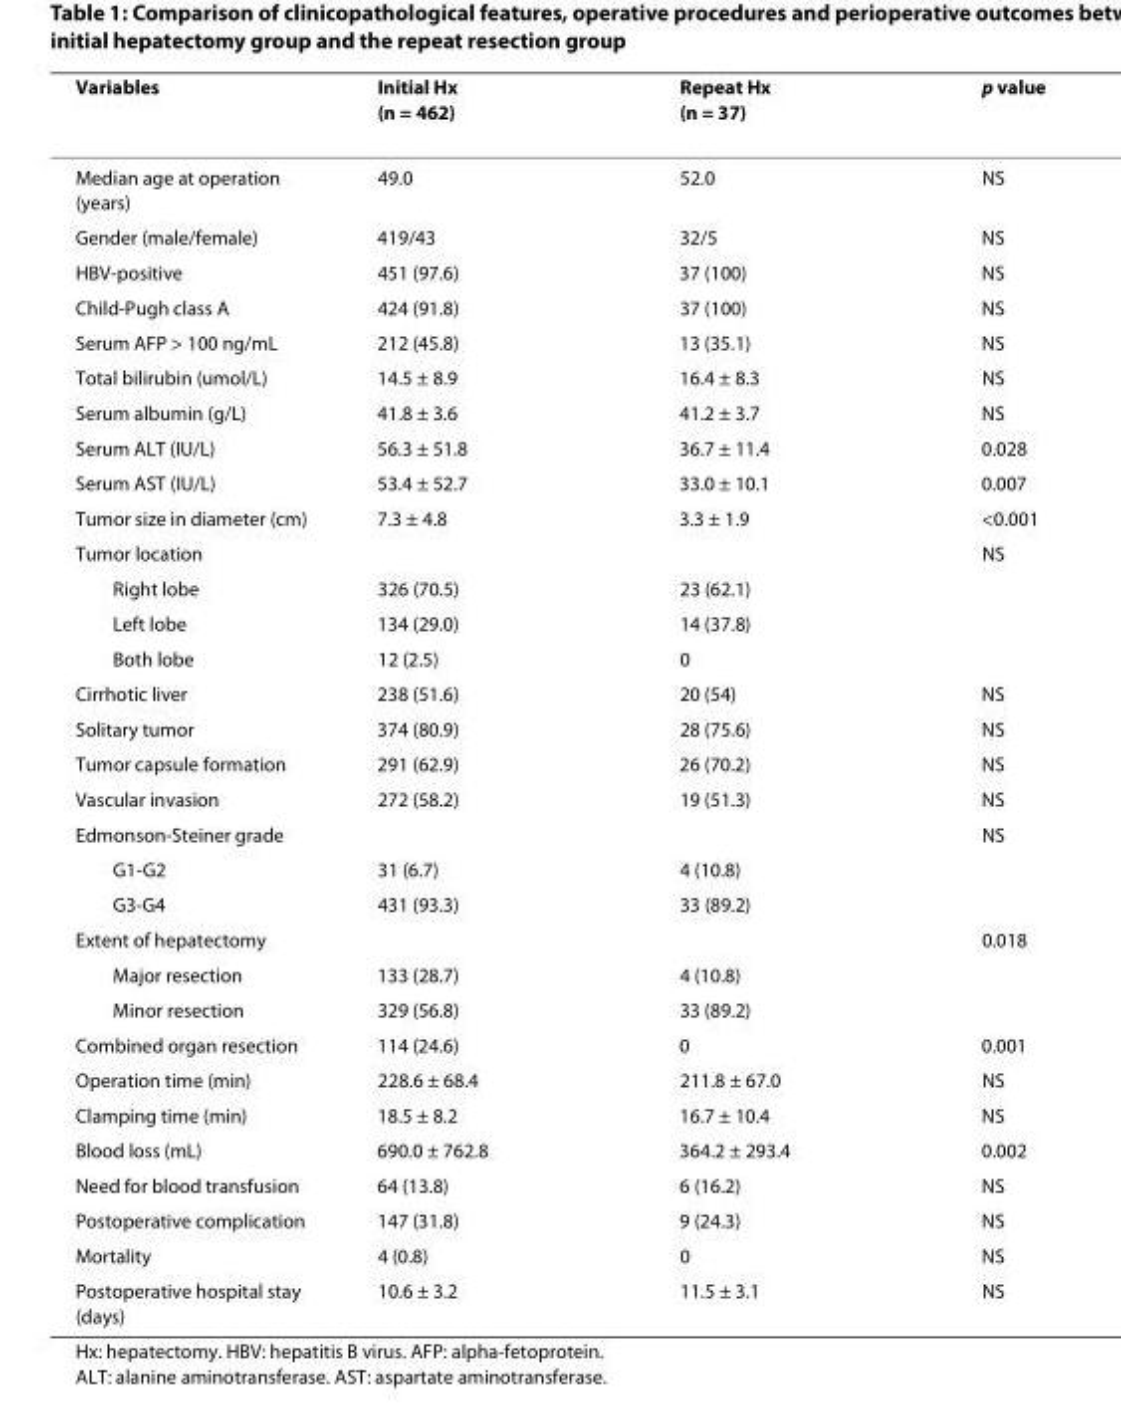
<table><thead><tr><td>Variables</td><td>Initial Hx (n = 462)</td><td>Repeat Hx (n = 37)</td><td>p value</td></tr></thead><tbody><tr><td>Median age at operation (years)</td><td>49.0</td><td>52.0</td><td>NS</td></tr><tr><td>Gender (male/female)</td><td>419/43</td><td>32/5</td><td>NS</td></tr><tr><td>HBV-positive</td><td>451 (97.6)</td><td>37 (100)</td><td>NS</td></tr><tr><td>Child-Pugh class A</td><td>424 (91.8)</td><td>37 (100)</td><td>NS</td></tr><tr><td>Serum AFP &gt; 100 ng/mL</td><td>212 (45.8)</td><td>13 (35.1)</td><td>NS</td></tr><tr><td>Total bilirubin (umol/L)</td><td>14.5 ± 8.9</td><td>16.4 ± 8.3</td><td>NS</td></tr><tr><td>Serum albumin (g/L)</td><td>41.8 ± 3.6</td><td>41.2 ± 3.7</td><td>NS</td></tr><tr><td>Serum ALT (IU/L)</td><td>56.3 ± 51.8</td><td>36.7 ± 11.4</td><td>0.028</td></tr><tr><td>Serum AST (IU/L)</td><td>53.4 ± 52.7</td><td>33.0 ± 10.1</td><td>0.007</td></tr><tr><td>Tumor size in diameter (cm)</td><td>7.3 ± 4.8</td><td>3.3 ± 1.9</td><td>&lt;0.001</td></tr><tr><td>Tumor location</td><td></td><td></td><td>NS</td></tr><tr><td>Right lobe</td><td>326 (70.5)</td><td>23 (62.1)</td><td></td></tr><tr><td>Left lobe</td><td>134 (29.0)</td><td>14 (37.8)</td><td></td></tr><tr><td>Both lobe</td><td>12 (2.5)</td><td>0</td><td></td></tr><tr><td>Cirrhotic liver</td><td>238 (51.6)</td><td>20 (54)</td><td>NS</td></tr><tr><td>Solitary tumor</td><td>374 (80.9)</td><td>28 (75.6)</td><td>NS</td></tr><tr><td>Tumor capsule formation</td><td>291 (62.9)</td><td>26 (70.2)</td><td>NS</td></tr><tr><td>Vascular invasion</td><td>272 (58.2)</td><td>19 (51.3)</td><td>NS</td></tr><tr><td>Edmonson-Steiner grade</td><td></td><td></td><td>NS</td></tr><tr><td>G1-G2</td><td>31 (6.7)</td><td>4 (10.8)</td><td></td></tr><tr><td>G3-G4</td><td>431 (93.3)</td><td>33 (89.2)</td><td></td></tr><tr><td>Extent of hepatectomy</td><td></td><td></td><td>0.018</td></tr><tr><td>Major resection</td><td>133 (28.7)</td><td>4 (10.8)</td><td></td></tr><tr><td>Minor resection</td><td>329 (56.8)</td><td>33 (89.2)</td><td></td></tr><tr><td>Combined organ resection</td><td>114 (24.6)</td><td>0</td><td>0.001</td></tr><tr><td>Operation time (min)</td><td>228.6 ± 68.4</td><td>211.8 ± 67.0</td><td>NS</td></tr><tr><td>Clamping time (min)</td><td>18.5 ± 8.2</td><td>16.7 ± 10.4</td><td>NS</td></tr><tr><td>Blood loss (mL)</td><td>690.0 ± 762.8</td><td>364.2 ± 293.4</td><td>0.002</td></tr><tr><td>Need for blood transfusion</td><td>64 (13.8)</td><td>6 (16.2)</td><td>NS</td></tr><tr><td>Postoperative complication</td><td>147 (31.8)</td><td>9 (24.3)</td><td>NS</td></tr><tr><td>Mortality</td><td>4 (0.8)</td><td>0</td><td>NS</td></tr><tr><td>Postoperative hospital stay (days)</td><td>10.6 ± 3.2</td><td>11.5 ± 3.1</td><td>NS</td></tr></tbody></table>